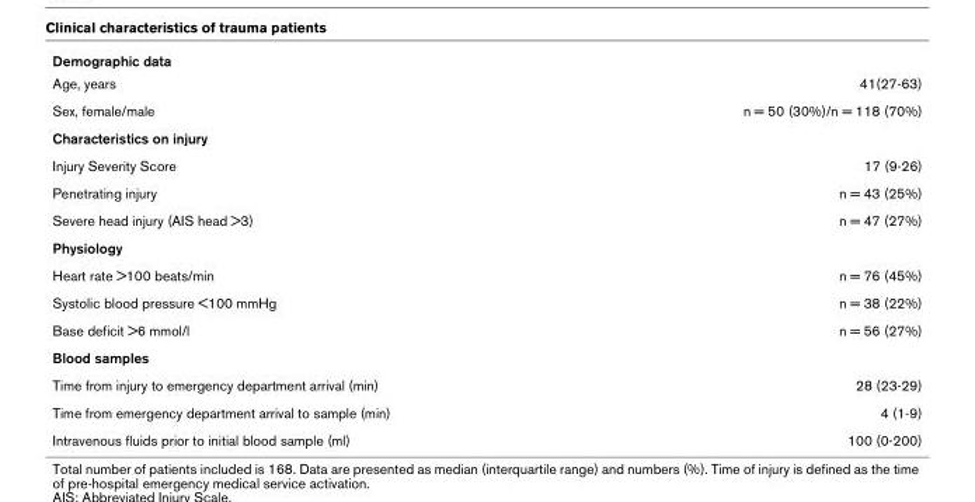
<table><tbody><tr><td colspan="2">Demographic data</td></tr><tr><td>Age, years</td><td>41(27-63)</td></tr><tr><td>Sex, female/male</td><td>n = 50 (30%)/n = 118 (70%)</td></tr><tr><td colspan="2">Characteristics on injury</td></tr><tr><td>Injury Severity Score</td><td>17 (9-26)</td></tr><tr><td>Penetrating injury</td><td>n = 43 (25%)</td></tr><tr><td>Severe head injury (AIS head &gt;3)</td><td>n = 47 (27%)</td></tr><tr><td colspan="2">Physiology</td></tr><tr><td>Heart rate &gt;100 beats/min</td><td>n = 76 (45%)</td></tr><tr><td>Systolic blood pressure &lt;100 mmHg</td><td>n = 38 (22%)</td></tr><tr><td>Base deficit &gt;6 mmol/l</td><td>n = 56 (27%)</td></tr><tr><td colspan="2">Blood samples</td></tr><tr><td>Time from injury to emergency department arrival (min)</td><td>28 (23-29)</td></tr><tr><td>Time from emergency department arrival to sample (min)</td><td>4 (1-9)</td></tr><tr><td>Intravenous fluids prior to initial blood sample (ml)</td><td>100 (0-200)</td></tr></tbody></table>